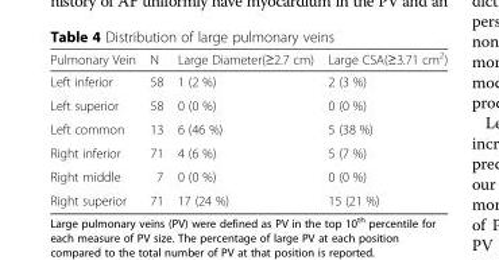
<table><thead><tr><td>Pulmonary Vein</td><td>N</td><td>Large Diameter(≥2.7 cm)</td><td>Large CSA(≥3.71 cm<sup>2</sup>)</td></tr></thead><tbody><tr><td>Left inferior</td><td>58</td><td>1 (2 %)</td><td>2 (3 %)</td></tr><tr><td>Left superior</td><td>58</td><td>0 (0 %)</td><td>0 (0 %)</td></tr><tr><td>Left common</td><td>13</td><td>6 (46 %)</td><td>5 (38 %)</td></tr><tr><td>Right inferior</td><td>71</td><td>4 (6 %)</td><td>5 (7 %)</td></tr><tr><td>Right middle</td><td>7</td><td>0 (0 %)</td><td>0 (0 %)</td></tr><tr><td>Right superior</td><td>71</td><td>17 (24 %)</td><td>15 (21 %)</td></tr></tbody></table>